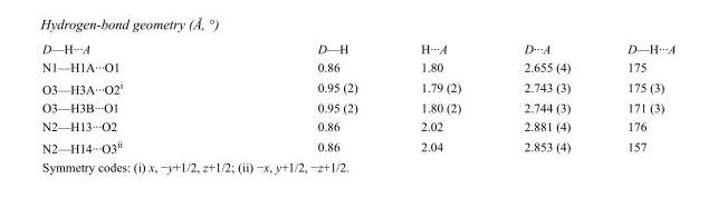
<table><tbody><tr><td>D—H···A</td><td>D—H</td><td>H···A</td><td>D···A</td><td>D—H···A</td></tr><tr><td>N1—H1A···O1</td><td>0.86</td><td>1.80</td><td>2.655 (4)</td><td>175</td></tr><tr><td>O3—H3A···O2<sup>i</sup></td><td>0.95 (2)</td><td>1.79 (2)</td><td>2.743 (3)</td><td>175 (3)</td></tr><tr><td>O3—H3B···O1</td><td>0.95 (2)</td><td>1.80 (2)</td><td>2.744 (3)</td><td>171 (3)</td></tr><tr><td>N2—H13···O2</td><td>0.86</td><td>2.02</td><td>2.881 (4)</td><td>176</td></tr><tr><td>N2—H14···O3<sup>ii</sup></td><td>0.86</td><td>2.04</td><td>2.853 (4)</td><td>157</td></tr></tbody></table>